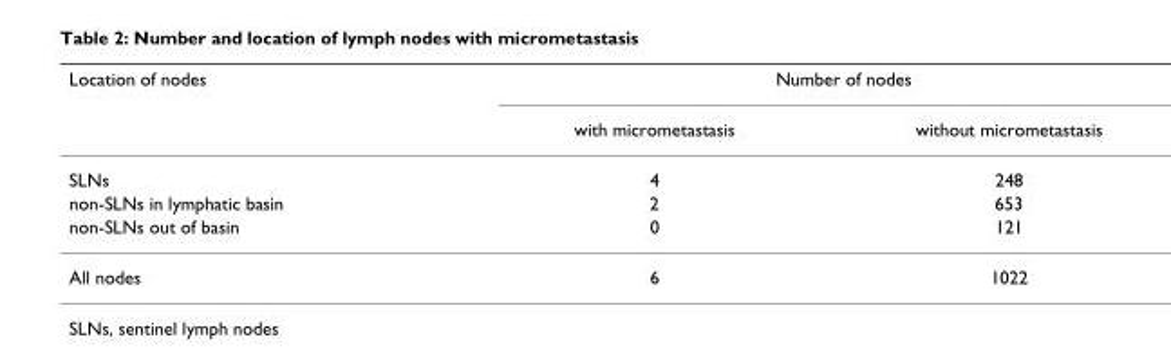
<table><thead><tr><td rowspan="2">Location of nodes</td><td colspan="2">Number of nodes</td></tr><tr><td>with micrometastasis</td><td>without micrometastasis</td></tr></thead><tbody><tr><td>SLNs</td><td>4</td><td>248</td></tr><tr><td>non-SLNs in lymphatic basin</td><td>2</td><td>653</td></tr><tr><td>non-SLNs out of basin</td><td>0</td><td>121</td></tr><tr><td>All nodes</td><td>6</td><td>1022</td></tr></tbody></table>